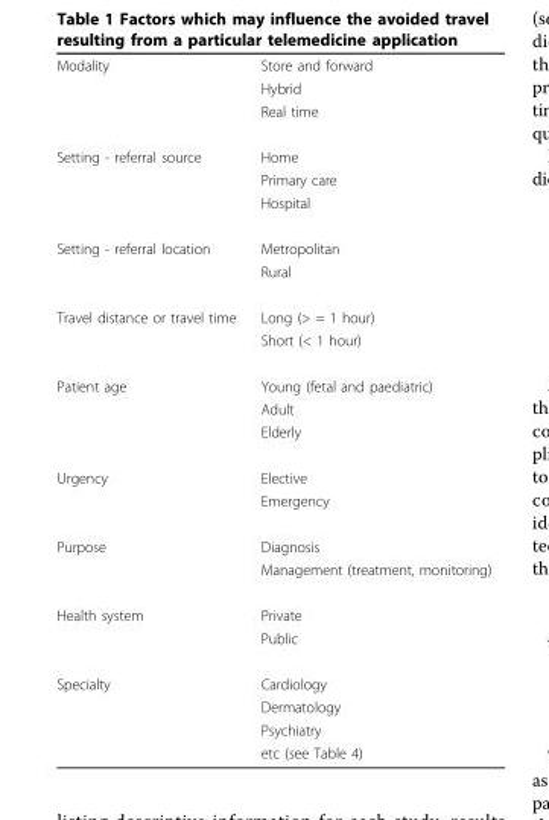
<table><tbody><tr><td rowspan="3">Modality</td><td>Store and forward</td></tr><tr><td>Hybrid</td></tr><tr><td>Real time</td></tr><tr><td rowspan="3">Setting - referral source</td><td>Home</td></tr><tr><td>Primary care</td></tr><tr><td>Hospital</td></tr><tr><td rowspan="2">Setting - referral location</td><td>Metropolitan</td></tr><tr><td>Rural</td></tr><tr><td rowspan="2">Travel distance or travel time</td><td>Long (&gt; = 1 hour)</td></tr><tr><td>Short (&lt; 1 hour)</td></tr><tr><td rowspan="3">Patient age</td><td>Young (fetal and paediatric)</td></tr><tr><td>Adult</td></tr><tr><td>Elderly</td></tr><tr><td rowspan="2">Urgency</td><td>Elective</td></tr><tr><td>Emergency</td></tr><tr><td rowspan="2">Purpose</td><td>Diagnosis</td></tr><tr><td>Management (treatment, monitoring)</td></tr><tr><td rowspan="2">Health system</td><td>Private</td></tr><tr><td>Public</td></tr><tr><td rowspan="4">Specialty</td><td>Cardiology</td></tr><tr><td>Dermatology</td></tr><tr><td>Psychiatry</td></tr><tr><td>etc (see Table 4)</td></tr></tbody></table>